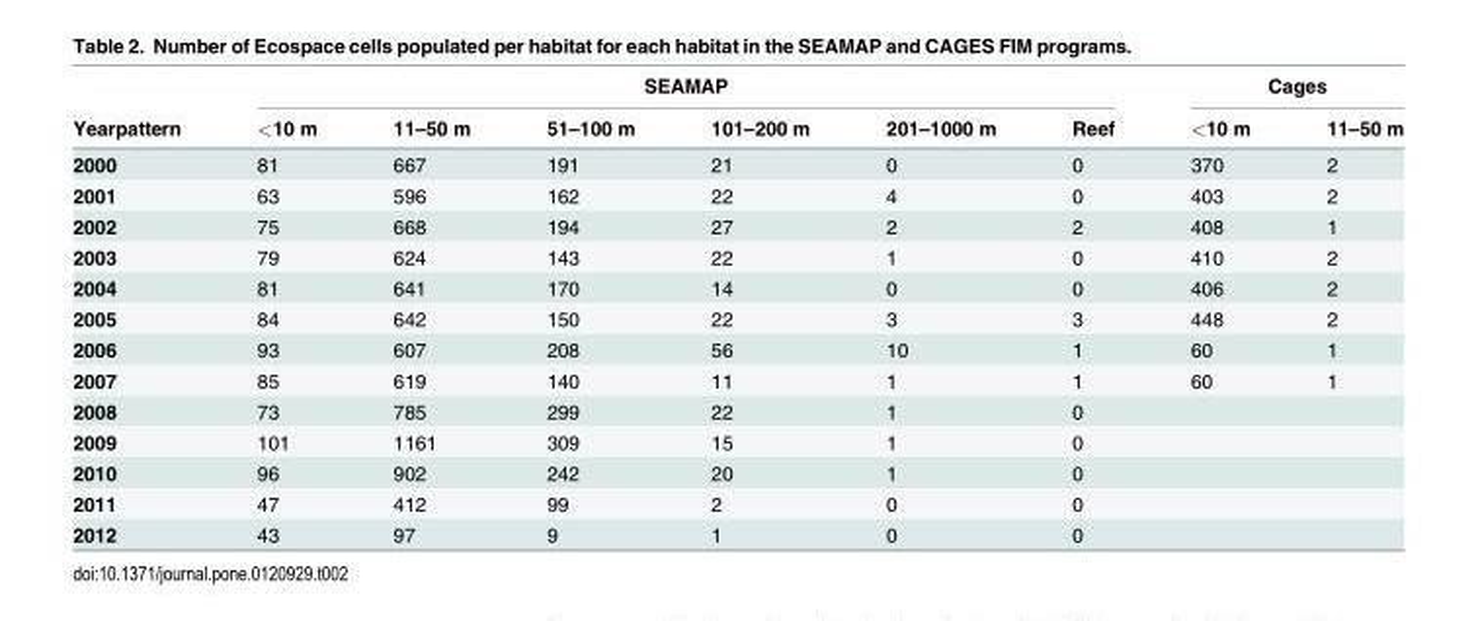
<table><thead><tr><td rowspan="2">Yearpattern</td><td colspan="6">SEAMAP</td><td colspan="2">Cages</td></tr><tr><td>&lt;10 m</td><td>11–50 m</td><td>51–100 m</td><td>101–200 m</td><td>201–1000 m</td><td>Reef</td><td>&lt;10 m</td><td>11–50 m</td></tr></thead><tbody><tr><td>2000</td><td>81</td><td>667</td><td>191</td><td>21</td><td>0</td><td>0</td><td>370</td><td>2</td></tr><tr><td>2001</td><td>63</td><td>596</td><td>162</td><td>22</td><td>4</td><td>0</td><td>403</td><td>2</td></tr><tr><td>2002</td><td>75</td><td>668</td><td>194</td><td>27</td><td>2</td><td>2</td><td>408</td><td>1</td></tr><tr><td>2003</td><td>79</td><td>624</td><td>143</td><td>22</td><td>1</td><td>0</td><td>410</td><td>2</td></tr><tr><td>2004</td><td>81</td><td>641</td><td>170</td><td>14</td><td>0</td><td>0</td><td>406</td><td>2</td></tr><tr><td>2005</td><td>84</td><td>642</td><td>150</td><td>22</td><td>3</td><td>3</td><td>448</td><td>2</td></tr><tr><td>2006</td><td>93</td><td>607</td><td>208</td><td>56</td><td>10</td><td>1</td><td>60</td><td>1</td></tr><tr><td>2007</td><td>85</td><td>619</td><td>140</td><td>11</td><td>1</td><td>1</td><td>60</td><td>1</td></tr><tr><td>2008</td><td>73</td><td>785</td><td>299</td><td>22</td><td>1</td><td>0</td><td></td><td></td></tr><tr><td>2009</td><td>101</td><td>1161</td><td>309</td><td>15</td><td>1</td><td>0</td><td></td><td></td></tr><tr><td>2010</td><td>96</td><td>902</td><td>242</td><td>20</td><td>1</td><td>0</td><td></td><td></td></tr><tr><td>2011</td><td>47</td><td>412</td><td>99</td><td>2</td><td>0</td><td>0</td><td></td><td></td></tr><tr><td>2012</td><td>43</td><td>97</td><td>9</td><td>1</td><td>0</td><td>0</td><td></td><td></td></tr></tbody></table>